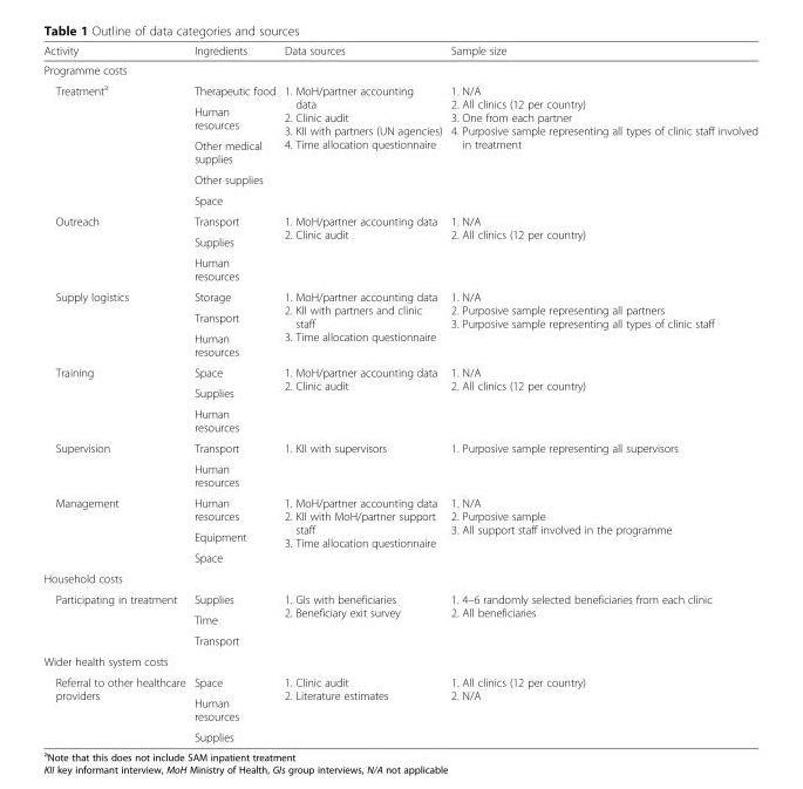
<table><thead><tr><td>Activity</td><td>Ingredients</td><td>Data sources</td><td>Sample size</td></tr></thead><tbody><tr><td colspan="4">Programme costs</td></tr><tr><td rowspan="5">Treatment<sup>a</sup></td><td>Therapeutic food</td><td rowspan="5">1. MoH/partner accounting data 2. Clinic audit 3. KII with partners (UN agencies) 4. Time allocation questionnaire</td><td rowspan="5">1. N/A 2. All clinics (12 per country) 3. One from each partner 4. Purposive sample representing all types of clinic staff involved in treatment</td></tr><tr><td>Human resources</td></tr><tr><td>Other medical supplies</td></tr><tr><td>Other supplies</td></tr><tr><td>Space</td></tr><tr><td rowspan="3">Outreach</td><td>Transport</td><td rowspan="3">1. MoH/partner accounting data 2. Clinic audit</td><td rowspan="3">1. N/A 2. All clinics (12 per country)</td></tr><tr><td>Supplies</td></tr><tr><td>Human resources</td></tr><tr><td rowspan="3">Supply logistics</td><td>Storage</td><td rowspan="3">1. MoH/partner accounting data 2. KII with partners and clinic staff 3. Time allocation questionnaire</td><td rowspan="3">1. N/A 2. Purposive sample representing all partners 3. Purposive sample representing all types of clinic staff</td></tr><tr><td>Transport</td></tr><tr><td>Human resources</td></tr><tr><td rowspan="3">Training</td><td>Space</td><td rowspan="3">1. MoH/partner accounting data 2. Clinic audit</td><td rowspan="3">1. N/A 2. All clinics (12 per country)</td></tr><tr><td>Supplies</td></tr><tr><td>Human resources</td></tr><tr><td rowspan="2">Supervision</td><td>Transport</td><td rowspan="2">1. KII with supervisors</td><td rowspan="2">1. Purposive sample representing all supervisors</td></tr><tr><td>Human resources</td></tr><tr><td rowspan="3">Management</td><td>Human resources</td><td rowspan="3">1. MoH/partner accounting data 2. KII with MoH/partner support staff 3. Time allocation questionnaire</td><td rowspan="3">1. N/A 2. Purposive sample 3. All support staff involved in the programme</td></tr><tr><td>Equipment</td></tr><tr><td>Space</td></tr><tr><td colspan="4">Household costs</td></tr><tr><td rowspan="3">Participating in treatment</td><td>Supplies</td><td rowspan="3">1. GIs with beneficiaries 2. Beneficiary exit survey</td><td rowspan="3">1. 4–6 randomly selected beneficiaries from each clinic 2. All beneficiaries</td></tr><tr><td>Time</td></tr><tr><td>Transport</td></tr><tr><td colspan="4">Wider health system costs</td></tr><tr><td rowspan="3">Referral to other healthcare providers</td><td>Space</td><td rowspan="3">1. Clinic audit 2. Literature estimates</td><td rowspan="3">1. All clinics (12 per country) 2. N/A</td></tr><tr><td>Human resources</td></tr><tr><td>Supplies</td></tr></tbody></table>